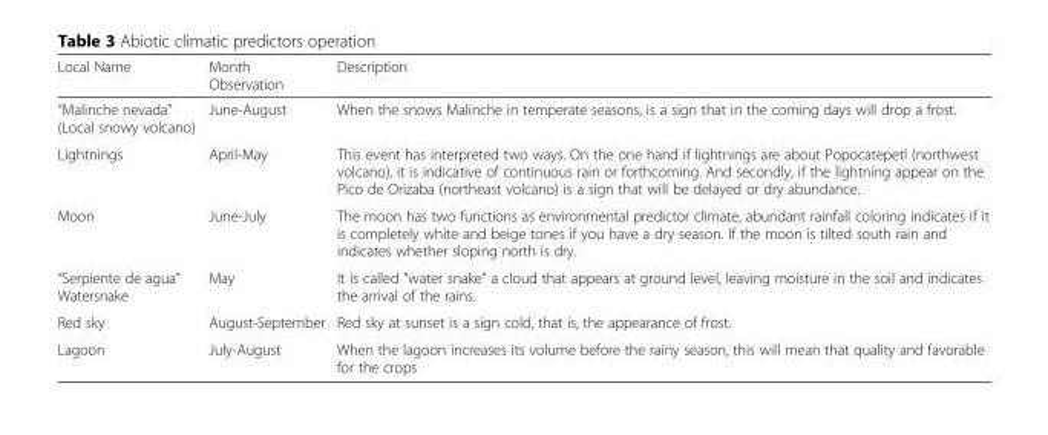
<table><thead><tr><td>Local Name</td><td>Month Observation</td><td>Description</td></tr></thead><tbody><tr><td>“Malinche nevada” (Local snowy volcano)</td><td>June-August</td><td>When the snows Malinche in temperate seasons, is a sign that in the coming days will drop a frost.</td></tr><tr><td>Lightnings</td><td>April-May</td><td>This event has interpreted two ways. On the one hand if lightnings are about Popocatepetl (northwest volcano), it is indicative of continuous rain or forthcoming. And secondly, if the lightning appear on the Pico de Orizaba (northeast volcano) is a sign that will be delayed or dry abundance.</td></tr><tr><td>Moon</td><td>June-July</td><td>The moon has two functions as environmental predictor climate, abundant rainfall coloring indicates if it is completely white and beige tones if you have a dry season. If the moon is tilted south rain and indicates whether sloping north is dry.</td></tr><tr><td>“Serpiente de agua” Watersnake</td><td>May</td><td>It is called &quot;water snake&quot; a cloud that appears at ground level, leaving moisture in the soil and indicates the arrival of the rains.</td></tr><tr><td>Red sky</td><td>August-September</td><td>Red sky at sunset is a sign cold, that is, the appearance of frost.</td></tr><tr><td>Lagoon</td><td>July-August</td><td>When the lagoon increases its volume before the rainy season, this will mean that quality and favorable for the crops</td></tr></tbody></table>